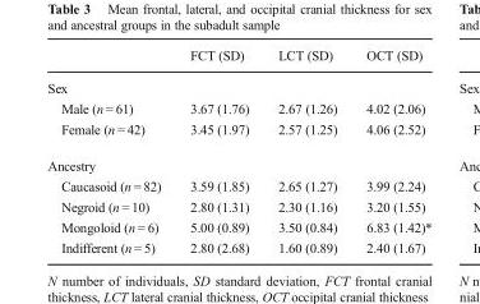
<table><thead><tr><td></td><td>FCT (SD)</td><td>LCT (SD)</td><td>OCT (SD)</td></tr></thead><tbody><tr><td colspan="4">Sex</td></tr><tr><td>Male (n = 61)</td><td>3.67 (1.76)</td><td>2.67 (1.26)</td><td>4.02 (2.06)</td></tr><tr><td>Female (n = 42)</td><td>3.45 (1.97)</td><td>2.57 (1.25)</td><td>4.06 (2.52)</td></tr><tr><td colspan="4">Ancestry</td></tr><tr><td>Caucasoid (n = 82)</td><td>3.59 (1.85)</td><td>2.65 (1.27)</td><td>3.99 (2.24)</td></tr><tr><td>Negroid (n = 10)</td><td>2.80 (1.31)</td><td>2.30 (1.16)</td><td>3.20 (1.55)</td></tr><tr><td>Mongoloid (n = 6)</td><td>5.00 (0.89)</td><td>3.50 (0.84)</td><td>6.83 (1.42)*</td></tr><tr><td>Indifferent (n = 5)</td><td>2.80 (2.68)</td><td>1.60 (0.89)</td><td>2.40 (1.67)</td></tr></tbody></table>